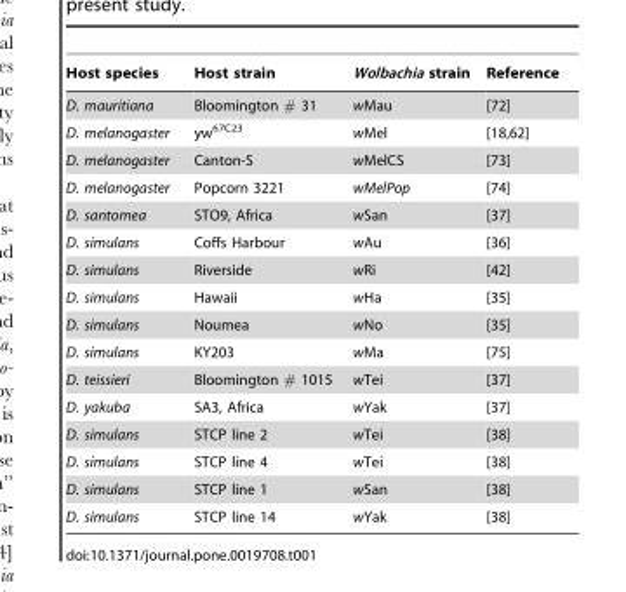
<table><thead><tr><td>Host species</td><td>Host strain</td><td>Wolbachia strain</td><td>Reference</td></tr></thead><tbody><tr><td>D. mauritiana</td><td>Bloomington # 31</td><td>wMau</td><td>[72]</td></tr><tr><td>D. melanogaster</td><td>yw<sup>67C23</sup></td><td>wMel</td><td>[18,62]</td></tr><tr><td>D. melanogaster</td><td>Canton-S</td><td>wMelCS</td><td>[73]</td></tr><tr><td>D. melanogaster</td><td>Popcorn 3221</td><td>wMelPop</td><td>[74]</td></tr><tr><td>D. santomea</td><td>STO9, Africa</td><td>wSan</td><td>[37]</td></tr><tr><td>D. simulans</td><td>Coffs Harbour</td><td>wAu</td><td>[36]</td></tr><tr><td>D. simulans</td><td>Riverside</td><td>wRi</td><td>[42]</td></tr><tr><td>D. simulans</td><td>Hawaii</td><td>wHa</td><td>[35]</td></tr><tr><td>D. simulans</td><td>Noumea</td><td>wNo</td><td>[35]</td></tr><tr><td>D. simulans</td><td>KY203</td><td>wMa</td><td>[75]</td></tr><tr><td>D. teissieri</td><td>Bloomington # 1015</td><td>wTei</td><td>[37]</td></tr><tr><td>D. yakuba</td><td>SA3, Africa</td><td>wYak</td><td>[37]</td></tr><tr><td>D. simulans</td><td>STCP line 2</td><td>wTei</td><td>[38]</td></tr><tr><td>D. simulans</td><td>STCP line 4</td><td>wTei</td><td>[38]</td></tr><tr><td>D. simulans</td><td>STCP line 1</td><td>wSan</td><td>[38]</td></tr><tr><td>D. simulans</td><td>STCP line 14</td><td>wYak</td><td>[38]</td></tr></tbody></table>